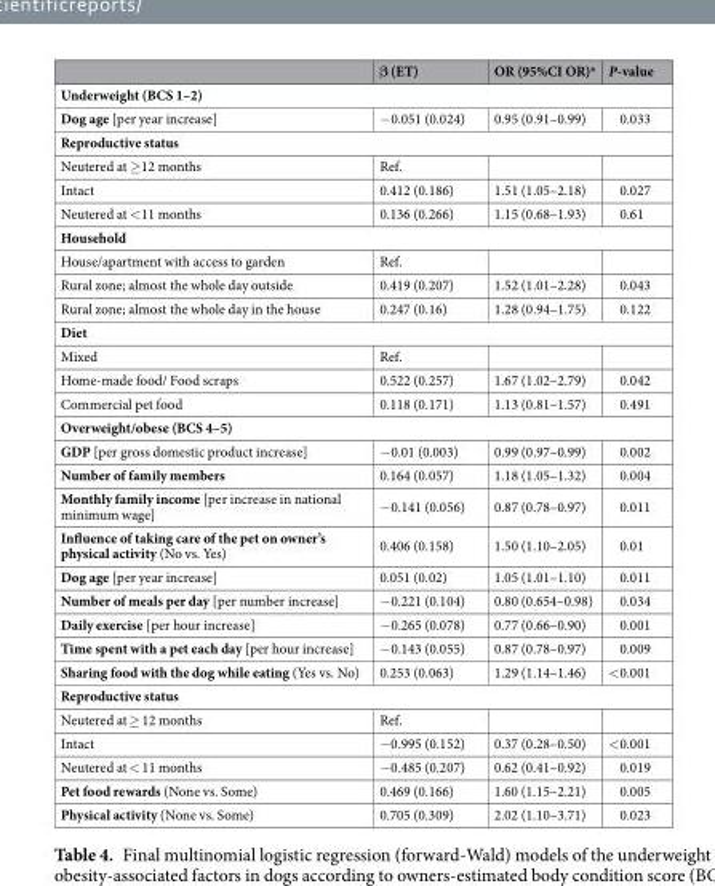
<table><thead><tr><td></td><td>β (ET)</td><td>OR (95%CI OR)<sup>a</sup></td><td>P-value</td></tr></thead><tbody><tr><td colspan="4">Underweight (BCS 1–2)</td></tr><tr><td>Dog age [per year increase]</td><td>−0.051 (0.024)</td><td>0.95 (0.91–0.99)</td><td>0.033</td></tr><tr><td colspan="4">Reproductive status</td></tr><tr><td>Neutered at ≥12 months</td><td>Ref.</td><td></td><td></td></tr><tr><td>Intact</td><td>0.412 (0.186)</td><td>1.51 (1.05–2.18)</td><td>0.027</td></tr><tr><td>Neutered at &lt;11 months</td><td>0.136 (0.266)</td><td>1.15 (0.68–1.93)</td><td>0.61</td></tr><tr><td colspan="4">Household</td></tr><tr><td>House/apartment with access to garden</td><td>Ref.</td><td></td><td></td></tr><tr><td>Rural zone; almost the whole day outside</td><td>0.419 (0.207)</td><td>1.52 (1.01–2.28)</td><td>0.043</td></tr><tr><td>Rural zone; almost the whole day in the house</td><td>0.247 (0.16)</td><td>1.28 (0.94–1.75)</td><td>0.122</td></tr><tr><td colspan="4">Diet</td></tr><tr><td>Mixed</td><td>Ref.</td><td></td><td></td></tr><tr><td>Home-made food/ Food scraps</td><td>0.522 (0.257)</td><td>1.67 (1.02–2.79)</td><td>0.042</td></tr><tr><td>Commercial pet food</td><td>0.118 (0.171)</td><td>1.13 (0.81–1.57)</td><td>0.491</td></tr><tr><td colspan="4">Overweight/obese (BCS 4–5)</td></tr><tr><td>GDP [per gross domestic product increase]</td><td>−0.01 (0.003)</td><td>0.99 (0.97–0.99)</td><td>0.002</td></tr><tr><td>Number of family members</td><td>0.164 (0.057)</td><td>1.18 (1.05–1.32)</td><td>0.004</td></tr><tr><td>Monthly family income [per increase in national minimum wage]</td><td>−0.141 (0.056)</td><td>0.87 (0.78–0.97)</td><td>0.011</td></tr><tr><td>Influence of taking care of the pet on owner’s physical activity (No vs. Yes)</td><td>0.406 (0.158)</td><td>1.50 (1.10–2.05)</td><td>0.01</td></tr><tr><td>Dog age [per year increase]</td><td>0.051 (0.02)</td><td>1.05 (1.01–1.10)</td><td>0.011</td></tr><tr><td>Number of meals per day [per number increase]</td><td>−0.221 (0.104)</td><td>0.80 (0.654–0.98)</td><td>0.034</td></tr><tr><td>Daily exercise [per hour increase]</td><td>−0.265 (0.078)</td><td>0.77 (0.66–0.90)</td><td>0.001</td></tr><tr><td>Time spent with a pet each day [per hour increase]</td><td>−0.143 (0.055)</td><td>0.87 (0.78–0.97)</td><td>0.009</td></tr><tr><td>Sharing food with the dog while eating (Yes vs. No)</td><td>0.253 (0.063)</td><td>1.29 (1.14–1.46)</td><td>&lt;0.001</td></tr><tr><td colspan="4">Reproductive status</td></tr><tr><td>Neutered at ≥ 12 months</td><td>Ref.</td><td></td><td></td></tr><tr><td>Intact</td><td>−0.995 (0.152)</td><td>0.37 (0.28–0.50)</td><td>&lt;0.001</td></tr><tr><td>Neutered at &lt; 11 months</td><td>−0.485 (0.207)</td><td>0.62 (0.41–0.92)</td><td>0.019</td></tr><tr><td>Pet food rewards (None vs. Some)</td><td>0.469 (0.166)</td><td>1.60 (1.15–2.21)</td><td>0.005</td></tr><tr><td>Physical activity (None vs. Some)</td><td>0.705 (0.309)</td><td>2.02 (1.10–3.71)</td><td>0.023</td></tr></tbody></table>